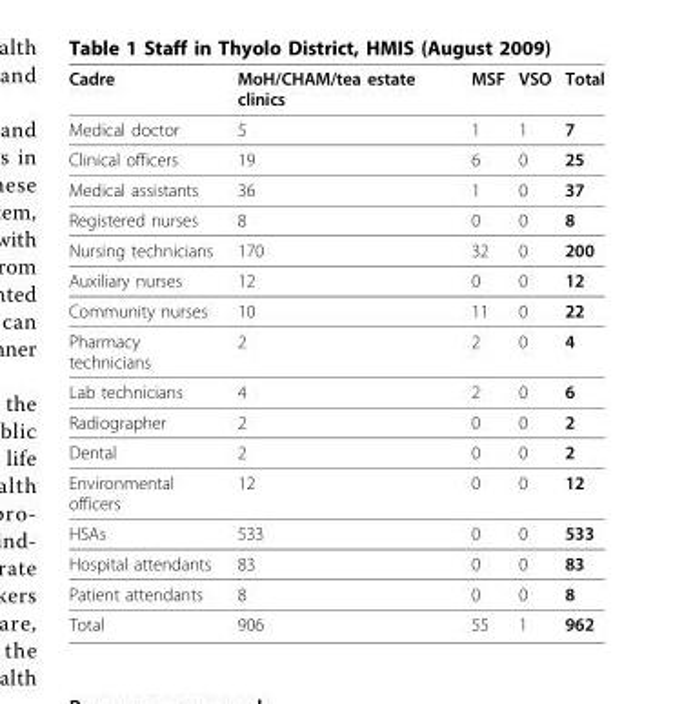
<table><thead><tr><td>Cadre</td><td>MoH/CHAM/tea estate clinics</td><td>MSF</td><td>VSO</td><td>Total</td></tr></thead><tbody><tr><td>Medical doctor</td><td>5</td><td>1</td><td>1</td><td>7</td></tr><tr><td>Clinical officers</td><td>19</td><td>6</td><td>0</td><td>25</td></tr><tr><td>Medical assistants</td><td>36</td><td>1</td><td>0</td><td>37</td></tr><tr><td>Registered nurses</td><td>8</td><td>0</td><td>0</td><td>8</td></tr><tr><td>Nursing technicians</td><td>170</td><td>32</td><td>0</td><td>200</td></tr><tr><td>Auxiliary nurses</td><td>12</td><td>0</td><td>0</td><td>12</td></tr><tr><td>Community nurses</td><td>10</td><td>11</td><td>0</td><td>22</td></tr><tr><td>Pharmacy technicians</td><td>2</td><td>2</td><td>0</td><td>4</td></tr><tr><td>Lab technicians</td><td>4</td><td>2</td><td>0</td><td>6</td></tr><tr><td>Radiographer</td><td>2</td><td>0</td><td>0</td><td>2</td></tr><tr><td>Dental</td><td>2</td><td>0</td><td>0</td><td>2</td></tr><tr><td>Environmental officers</td><td>12</td><td>0</td><td>0</td><td>12</td></tr><tr><td>HSAs</td><td>533</td><td>0</td><td>0</td><td>533</td></tr><tr><td>Hospital attendants</td><td>83</td><td>0</td><td>0</td><td>83</td></tr><tr><td>Patient attendants</td><td>8</td><td>0</td><td>0</td><td>8</td></tr><tr><td>Total</td><td>906</td><td>55</td><td>1</td><td>962</td></tr></tbody></table>